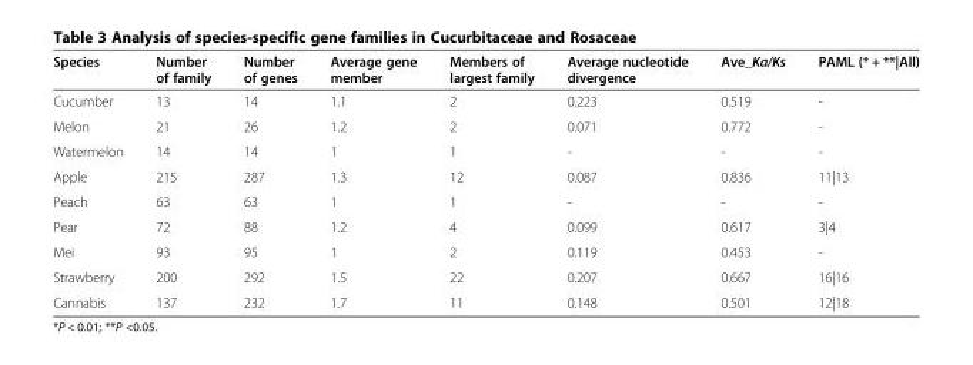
<table><thead><tr><td>Species</td><td>Number of family</td><td>Number of genes</td><td>Average gene member</td><td>Members of largest family</td><td>Average nucleotide divergence</td><td>Ave_Ka/Ks</td><td>PAML (* + **|All)</td></tr></thead><tbody><tr><td>Cucumber</td><td>13</td><td>14</td><td>1.1</td><td>2</td><td>0.223</td><td>0.519</td><td>-</td></tr><tr><td>Melon</td><td>21</td><td>26</td><td>1.2</td><td>2</td><td>0.071</td><td>0.772</td><td>-</td></tr><tr><td>Watermelon</td><td>14</td><td>14</td><td>1</td><td>1</td><td>-</td><td>-</td><td>-</td></tr><tr><td>Apple</td><td>215</td><td>287</td><td>1.3</td><td>12</td><td>0.087</td><td>0.836</td><td>11|13</td></tr><tr><td>Peach</td><td>63</td><td>63</td><td>1</td><td>1</td><td>-</td><td>-</td><td>-</td></tr><tr><td>Pear</td><td>72</td><td>88</td><td>1.2</td><td>4</td><td>0.099</td><td>0.617</td><td>3|4</td></tr><tr><td>Mei</td><td>93</td><td>95</td><td>1</td><td>2</td><td>0.119</td><td>0.453</td><td>-</td></tr><tr><td>Strawberry</td><td>200</td><td>292</td><td>1.5</td><td>22</td><td>0.207</td><td>0.667</td><td>16|16</td></tr><tr><td>Cannabis</td><td>137</td><td>232</td><td>1.7</td><td>11</td><td>0.148</td><td>0.501</td><td>12|18</td></tr></tbody></table>